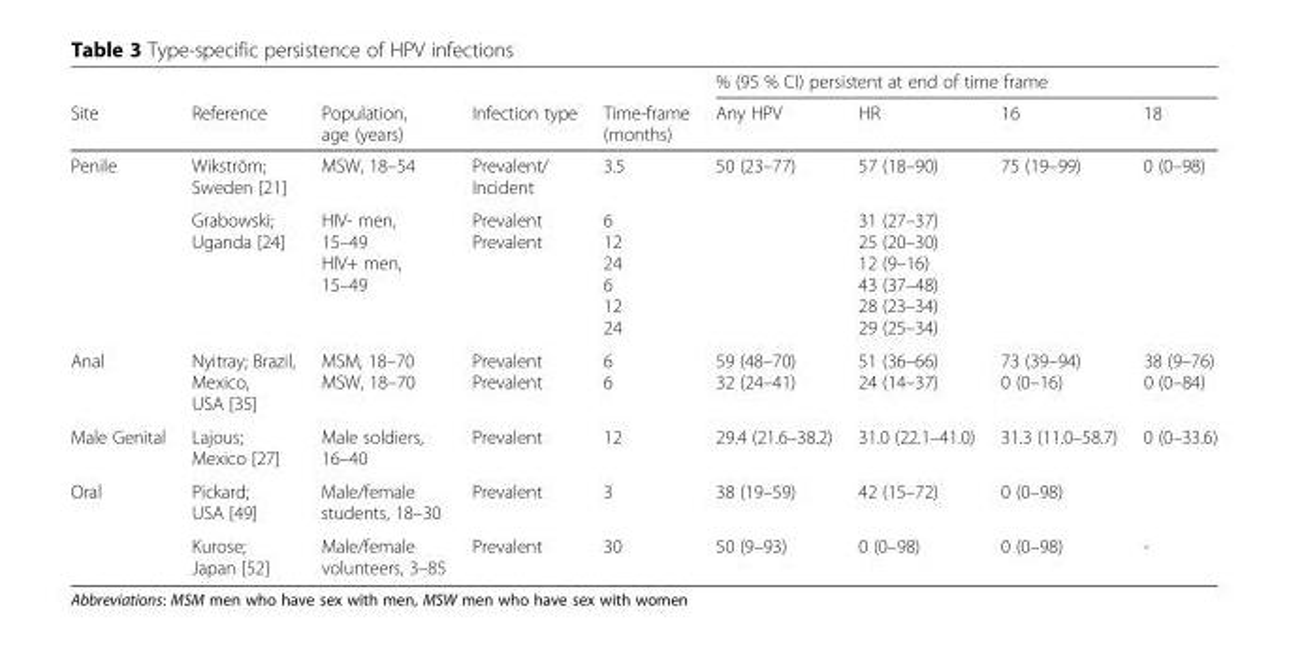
<table><thead><tr><td rowspan="2">Site</td><td rowspan="2">Reference</td><td rowspan="2">Population, age (years)</td><td rowspan="2">Infection type</td><td rowspan="2">Time-frame (months)</td><td colspan="4">% (95 % CI) persistent at end of time frame</td></tr><tr><td>Any HPV</td><td>HR</td><td>16</td><td>18</td></tr></thead><tbody><tr><td rowspan="2">Penile</td><td>Wikström; Sweden [21]</td><td>MSW, 18–54</td><td>Prevalent/ Incident</td><td>3.5</td><td>50 (23–77)</td><td>57 (18–90)</td><td>75 (19–99)</td><td>0 (0–98)</td></tr><tr><td>Grabowski; Uganda [24]</td><td>HIV- men, 15–49 HIV+ men, 15–49</td><td>Prevalent Prevalent</td><td>6 12 24 6 12 24</td><td></td><td>31 (27–37) 25 (20–30) 12 (9–16) 43 (37–48) 28 (23–34) 29 (25–34)</td><td></td><td></td></tr><tr><td>Anal</td><td>Nyitray; Brazil, Mexico, USA [35]</td><td>MSM, 18–70 MSW, 18–70</td><td>Prevalent Prevalent</td><td>6 6</td><td>59 (48–70) 32 (24–41)</td><td>51 (36–66) 24 (14–37)</td><td>73 (39–94) 0 (0–16)</td><td>38 (9–76) 0 (0–84)</td></tr><tr><td>Male Genital</td><td>Lajous; Mexico [27]</td><td>Male soldiers, 16–40</td><td>Prevalent</td><td>12</td><td>29.4 (21.6–38.2)</td><td>31.0 (22.1–41.0)</td><td>31.3 (11.0–58.7)</td><td>0 (0–33.6)</td></tr><tr><td rowspan="2">Oral</td><td>Pickard; USA [49]</td><td>Male/female students, 18–30</td><td>Prevalent</td><td>3</td><td>38 (19–59)</td><td>42 (15–72)</td><td>0 (0–98)</td><td></td></tr><tr><td>Kurose; Japan [52]</td><td>Male/female volunteers, 3–85</td><td>Prevalent</td><td>30</td><td>50 (9–93)</td><td>0 (0–98)</td><td>0 (0–98)</td><td>-</td></tr></tbody></table>